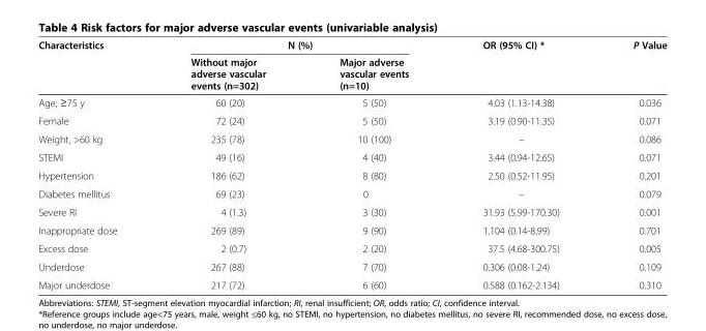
<table><thead><tr><td rowspan="2">Characteristics</td><td colspan="2">N (%)</td><td rowspan="2">OR (95% CI) *</td><td rowspan="2">P Value</td></tr><tr><td>Without major adverse vascular events (n=302)</td><td>Major adverse vascular events (n=10)</td></tr></thead><tbody><tr><td>Age, ≥75 y</td><td>60 (20)</td><td>5 (50)</td><td>4.03 (1.13-14.38)</td><td>0.036</td></tr><tr><td>Female</td><td>72 (24)</td><td>5 (50)</td><td>3.19 (0.90-11.35)</td><td>0.071</td></tr><tr><td>Weight, &gt;60 kg</td><td>235 (78)</td><td>10 (100)</td><td>–</td><td>0.086</td></tr><tr><td>STEMI</td><td>49 (16)</td><td>4 (40)</td><td>3.44 (0.94-12.65)</td><td>0.071</td></tr><tr><td>Hypertension</td><td>186 (62)</td><td>8 (80)</td><td>2.50 (0.52-11.95)</td><td>0.201</td></tr><tr><td>Diabetes mellitus</td><td>69 (23)</td><td>0</td><td>–</td><td>0.079</td></tr><tr><td>Severe RI</td><td>4 (1.3)</td><td>3 (30)</td><td>31.93 (5.99-170.30)</td><td>0.001</td></tr><tr><td>Inappropriate dose</td><td>269 (89)</td><td>9 (90)</td><td>1.104 (0.14-8.99)</td><td>0.701</td></tr><tr><td>Excess dose</td><td>2 (0.7)</td><td>2 (20)</td><td>37.5 (4.68-300.75)</td><td>0.005</td></tr><tr><td>Underdose</td><td>267 (88)</td><td>7 (70)</td><td>0.306 (0.08-1.24)</td><td>0.109</td></tr><tr><td>Major underdose</td><td>217 (72)</td><td>6 (60)</td><td>0.588 (0.162-2.134)</td><td>0.310</td></tr></tbody></table>